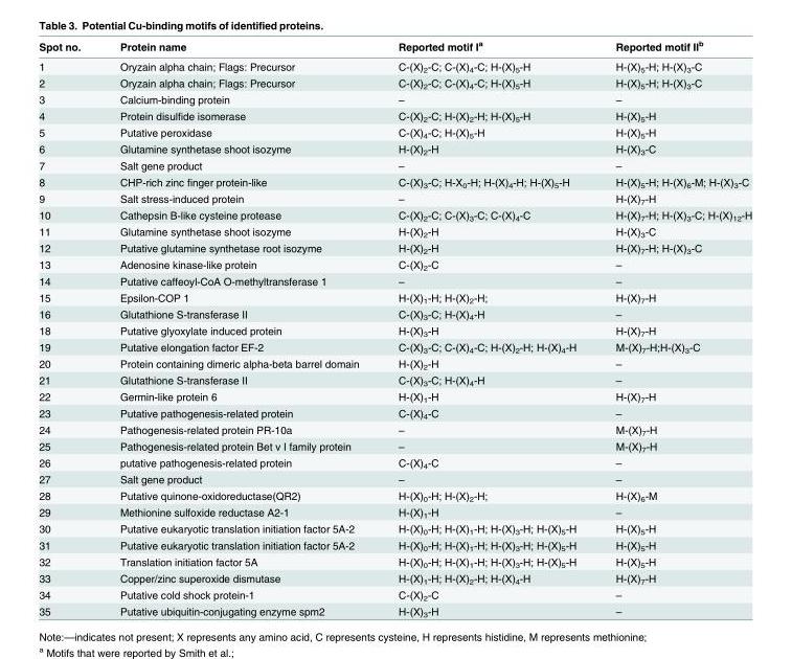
<table><thead><tr><td>Spot no.</td><td>Protein name</td><td>Reported motif I<sup>a</sup></td><td>Reported motif II<sup>b</sup></td></tr></thead><tbody><tr><td>1</td><td>Oryzain alpha chain; Flags: Precursor</td><td>C-(X)<sub>2</sub>-C; C-(X)<sub>4</sub>-C; H-(X)<sub>5</sub>-H</td><td>H-(X)<sub>5</sub>-H; H-(X)<sub>3</sub>-C</td></tr><tr><td>2</td><td>Oryzain alpha chain; Flags: Precursor</td><td>C-(X)<sub>2</sub>-C; C-(X)<sub>4</sub>-C; H-(X)<sub>5</sub>-H</td><td>H-(X)<sub>5</sub>-H; H-(X)<sub>3</sub>-C</td></tr><tr><td>3</td><td>Calcium-binding protein</td><td>–</td><td>–</td></tr><tr><td>4</td><td>Protein disulfide isomerase</td><td>C-(X)<sub>2</sub>-C; H-(X)<sub>2</sub>-H; H-(X)<sub>5</sub>-H</td><td>H-(X)<sub>5</sub>-H</td></tr><tr><td>5</td><td>Putative peroxidase</td><td>C-(X)<sub>4</sub>-C; H-(X)<sub>5</sub>-H</td><td>H-(X)<sub>5</sub>-H</td></tr><tr><td>6</td><td>Glutamine synthetase shoot isozyme</td><td>H-(X)<sub>2</sub>-H</td><td>H-(X)<sub>3</sub>-C</td></tr><tr><td>7</td><td>Salt gene product</td><td>–</td><td>–</td></tr><tr><td>8</td><td>CHP-rich zinc finger protein-like</td><td>C-(X)<sub>3</sub>-C; H-X<sub>0</sub>-H; H-(X)<sub>4</sub>-H; H-(X)<sub>5</sub>-H</td><td>H-(X)<sub>5</sub>-H; H-(X)<sub>6</sub>-M; H-(X)<sub>3</sub>-C</td></tr><tr><td>9</td><td>Salt stress-induced protein</td><td>–</td><td>H-(X)<sub>7</sub>-H</td></tr><tr><td>10</td><td>Cathepsin B-like cysteine protease</td><td>C-(X)<sub>2</sub>-C; C-(X)<sub>3</sub>-C; C-(X)<sub>4</sub>-C</td><td>H-(X)<sub>7</sub>-H; H-(X)<sub>3</sub>-C; H-(X)<sub>12</sub>-H</td></tr><tr><td>11</td><td>Glutamine synthetase shoot isozyme</td><td>H-(X)<sub>2</sub>-H</td><td>H-(X)<sub>3</sub>-C</td></tr><tr><td>12</td><td>Putative glutamine synthetase root isozyme</td><td>H-(X)<sub>2</sub>-H</td><td>H-(X)<sub>7</sub>-H; H-(X)<sub>3</sub>-C</td></tr><tr><td>13</td><td>Adenosine kinase-like protein</td><td>C-(X)<sub>2</sub>-C</td><td>–</td></tr><tr><td>14</td><td>Putative caffeoyl-CoA O-methyltransferase 1</td><td>–</td><td>–</td></tr><tr><td>15</td><td>Epsilon-COP 1</td><td>H-(X)<sub>1</sub>-H; H-(X)<sub>2</sub>-H;</td><td>H-(X)<sub>7</sub>-H</td></tr><tr><td>16</td><td>Glutathione S-transferase II</td><td>C-(X)<sub>3</sub>-C; H-(X)<sub>4</sub>-H</td><td>–</td></tr><tr><td>18</td><td>Putative glyoxylate induced protein</td><td>H-(X)<sub>3</sub>-H</td><td>H-(X)<sub>7</sub>-H</td></tr><tr><td>19</td><td>Putative elongation factor EF-2</td><td>C-(X)<sub>3</sub>-C; C-(X)<sub>4</sub>-C; H-(X)<sub>2</sub>-H; H-(X)<sub>4</sub>-H</td><td>M-(X)<sub>7</sub>-H;H-(X)<sub>3</sub>-C</td></tr><tr><td>20</td><td>Protein containing dimeric alpha-beta barrel domain</td><td>H-(X)<sub>2</sub>-H</td><td>–</td></tr><tr><td>21</td><td>Glutathione S-transferase II</td><td>C-(X)<sub>3</sub>-C; H-(X)<sub>4</sub>-H</td><td>–</td></tr><tr><td>22</td><td>Germin-like protein 6</td><td>H-(X)<sub>1</sub>-H</td><td>H-(X)<sub>7</sub>-H</td></tr><tr><td>23</td><td>Putative pathogenesis-related protein</td><td>C-(X)<sub>4</sub>-C</td><td>–</td></tr><tr><td>24</td><td>Pathogenesis-related protein PR-10a</td><td>–</td><td>M-(X)<sub>7</sub>-H</td></tr><tr><td>25</td><td>Pathogenesis-related protein Bet v I family protein</td><td>–</td><td>M-(X)<sub>7</sub>-H</td></tr><tr><td>26</td><td>putative pathogenesis-related protein</td><td>C-(X)<sub>4</sub>-C</td><td>–</td></tr><tr><td>27</td><td>Salt gene product</td><td>–</td><td>–</td></tr><tr><td>28</td><td>Putative quinone-oxidoreductase(QR2)</td><td>H-(X)<sub>0</sub>-H; H-(X)<sub>2</sub>-H;</td><td>H-(X)<sub>6</sub>-M</td></tr><tr><td>29</td><td>Methionine sulfoxide reductase A2-1</td><td>H-(X)<sub>1</sub>-H</td><td>–</td></tr><tr><td>30</td><td>Putative eukaryotic translation initiation factor 5A-2</td><td>H-(X)<sub>0</sub>-H; H-(X)<sub>1</sub>-H; H-(X)<sub>3</sub>-H; H-(X)<sub>5</sub>-H</td><td>H-(X)<sub>5</sub>-H</td></tr><tr><td>31</td><td>Putative eukaryotic translation initiation factor 5A-2</td><td>H-(X)<sub>0</sub>-H; H-(X)<sub>1</sub>-H; H-(X)<sub>3</sub>-H; H-(X)<sub>5</sub>-H</td><td>H-(X)<sub>5</sub>-H</td></tr><tr><td>32</td><td>Translation initiation factor 5A</td><td>H-(X)<sub>0</sub>-H; H-(X)<sub>1</sub>-H; H-(X)<sub>3</sub>-H; H-(X)<sub>5</sub>-H</td><td>H-(X)<sub>5</sub>-H</td></tr><tr><td>33</td><td>Copper/zinc superoxide dismutase</td><td>H-(X)<sub>1</sub>-H; H-(X)<sub>2</sub>-H; H-(X)<sub>4</sub>-H</td><td>H-(X)<sub>7</sub>-H</td></tr><tr><td>34</td><td>Putative cold shock protein-1</td><td>C-(X)<sub>2</sub>-C</td><td>–</td></tr><tr><td>35</td><td>Putative ubiquitin-conjugating enzyme spm2</td><td>H-(X)<sub>3</sub>-H</td><td>–</td></tr></tbody></table>